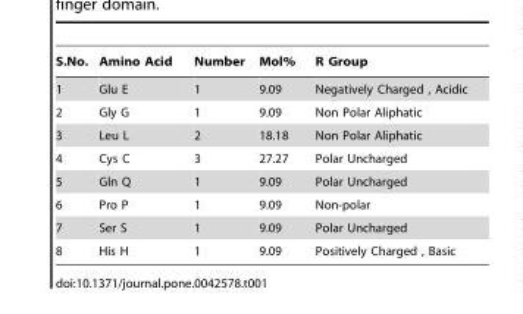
<table><thead><tr><td>S.No.</td><td>Amino Acid</td><td>Number</td><td>Mol%</td><td>R Group</td></tr></thead><tbody><tr><td>1</td><td>Glu E</td><td>1</td><td>9.09</td><td>Negatively Charged , Acidic</td></tr><tr><td>2</td><td>Gly G</td><td>1</td><td>9.09</td><td>Non Polar Aliphatic</td></tr><tr><td>3</td><td>Leu L</td><td>2</td><td>18.18</td><td>Non Polar Aliphatic</td></tr><tr><td>4</td><td>Cys C</td><td>3</td><td>27.27</td><td>Polar Uncharged</td></tr><tr><td>5</td><td>Gln Q</td><td>1</td><td>9.09</td><td>Polar Uncharged</td></tr><tr><td>6</td><td>Pro P</td><td>1</td><td>9.09</td><td>Non-polar</td></tr><tr><td>7</td><td>Ser S</td><td>1</td><td>9.09</td><td>Polar Uncharged</td></tr><tr><td>8</td><td>His H</td><td>1</td><td>9.09</td><td>Positively Charged , Basic</td></tr></tbody></table>